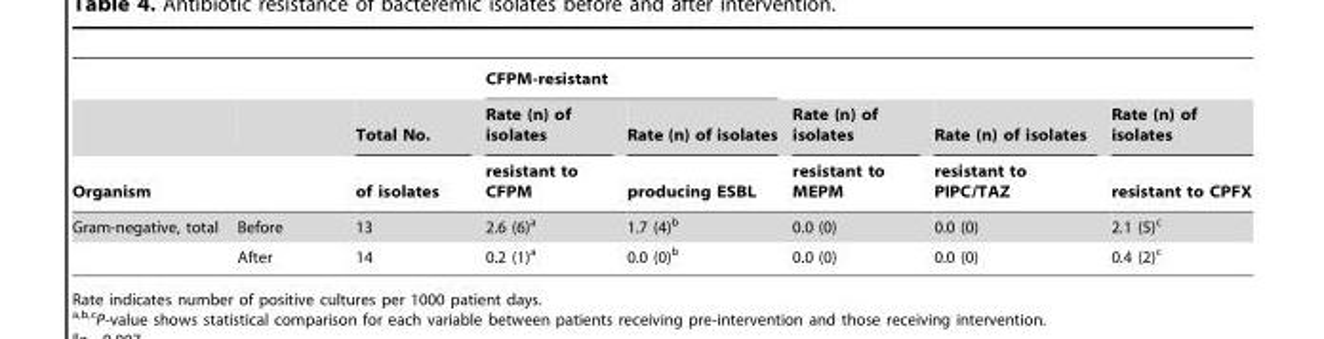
<table><thead><tr><td rowspan="3">Organism</td><td rowspan="3"></td><td rowspan="3">Total No. of isolates</td><td colspan="2">CFPM-resistant</td><td rowspan="3">Rate (n) of isolates resistant to MEPM</td><td rowspan="3">Rate (n) of isolates resistant to PIPC/TAZ</td><td rowspan="3">Rate (n) of isolates resistant to CPFX</td></tr><tr><td rowspan="2">Rate (n) of isolates resistant to CFPM</td><td rowspan="2">Rate (n) of isolates producing ESBL</td></tr><tr></tr></thead><tbody><tr><td rowspan="2">Gram-negative, total</td><td>Before</td><td>13</td><td>2.6 (6)<sup>a</sup></td><td>1.7 (4)<sup>b</sup></td><td>0.0 (0)</td><td>0.0 (0)</td><td>2.1 (5)<sup>c</sup></td></tr><tr><td>After</td><td>14</td><td>0.2 (1)<sup>a</sup></td><td>0.0 (0)<sup>b</sup></td><td>0.0 (0)</td><td>0.0 (0)</td><td>0.4 (2)<sup>c</sup></td></tr></tbody></table>